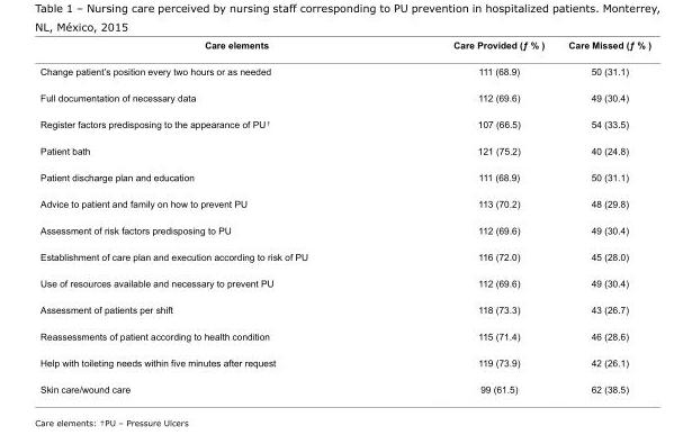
<table><tbody><tr><td>Care elements</td><td>Care Provided (ƒ % )</td><td>Care Missed (ƒ % )</td></tr><tr><td>Change patient’s position every two hours or as needed</td><td>111 (68.9)</td><td>50 (31.1)</td></tr><tr><td>Full documentation of necessary data</td><td>112 (69.6)</td><td>49 (30.4)</td></tr><tr><td>Register factors predisposing to the appearance of PU <sup>†</sup></td><td>107 (66.5)</td><td>54 (33.5)</td></tr><tr><td>Patient bath</td><td>121 (75.2)</td><td>40 (24.8)</td></tr><tr><td>Patient discharge plan and education</td><td>111 (68.9)</td><td>50 (31.1)</td></tr><tr><td>Advice to patient and family on how to prevent PU</td><td>113 (70.2)</td><td>48 (29.8)</td></tr><tr><td>Assessment of risk factors predisposing to PU</td><td>112 (69.6)</td><td>49 (30.4)</td></tr><tr><td>Establishment of care plan and execution according to risk of PU</td><td>116 (72.0)</td><td>45 (28.0)</td></tr><tr><td>Use of resources available and necessary to prevent PU</td><td>112 (69.6)</td><td>49 (30.4)</td></tr><tr><td>Assessment of patients per shift</td><td>118 (73.3)</td><td>43 (26.7)</td></tr><tr><td>Reassessments of patient according to health condition</td><td>115 (71.4)</td><td>46 (28.6)</td></tr><tr><td>Help with toileting needs within five minutes after request</td><td>119 (73.9)</td><td>42 (26.1)</td></tr><tr><td>Skin care/wound care</td><td>99 (61.5)</td><td>62 (38.5)</td></tr></tbody></table>